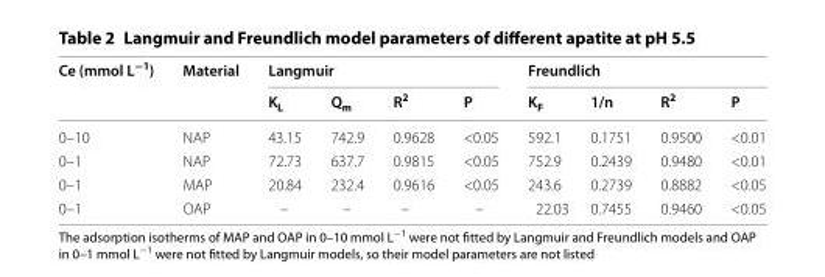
<table><thead><tr><td rowspan="2">Ce (mmol L<sup>−1</sup>)</td><td rowspan="2">Material</td><td colspan="4">Langmuir</td><td colspan="4">Freundlich</td></tr><tr><td>K<sub>L</sub></td><td>Q<sub>m</sub></td><td>R<sup>2</sup></td><td>P</td><td>K<sub>F</sub></td><td>1/n</td><td>R<sup>2</sup></td><td>P</td></tr></thead><tbody><tr><td>0–10</td><td>NAP</td><td>43.15</td><td>742.9</td><td>0.9628</td><td>&lt;0.05</td><td>592.1</td><td>0.1751</td><td>0.9500</td><td>&lt;0.01</td></tr><tr><td>0–1</td><td>NAP</td><td>72.73</td><td>637.7</td><td>0.9815</td><td>&lt;0.05</td><td>752.9</td><td>0.2439</td><td>0.9480</td><td>&lt;0.01</td></tr><tr><td>0–1</td><td>MAP</td><td>20.84</td><td>232.4</td><td>0.9616</td><td>&lt;0.05</td><td>243.6</td><td>0.2739</td><td>0.8882</td><td>&lt;0.05</td></tr><tr><td>0–1</td><td>OAP</td><td>–</td><td>–</td><td>–</td><td>–</td><td>22.03</td><td>0.7455</td><td>0.9460</td><td>&lt;0.05</td></tr></tbody></table>